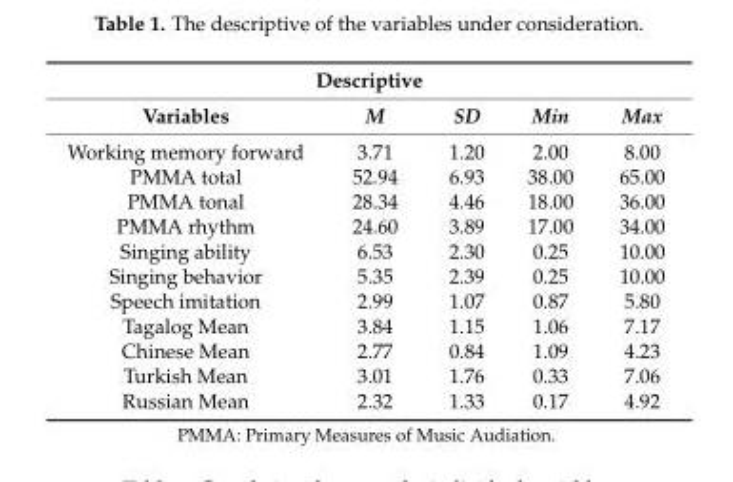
<table><thead><tr><td colspan="5">Descriptive</td></tr><tr><td>Variables</td><td>M</td><td>SD</td><td>Min</td><td>Max</td></tr></thead><tbody><tr><td>Working memory forward</td><td>3.71</td><td>1.20</td><td>2.00</td><td>8.00</td></tr><tr><td>PMMA total</td><td>52.94</td><td>6.93</td><td>38.00</td><td>65.00</td></tr><tr><td>PMMA tonal</td><td>28.34</td><td>4.46</td><td>18.00</td><td>36.00</td></tr><tr><td>PMMA rhythm</td><td>24.60</td><td>3.89</td><td>17.00</td><td>34.00</td></tr><tr><td>Singing ability</td><td>6.53</td><td>2.30</td><td>0.25</td><td>10.00</td></tr><tr><td>Singing behavior</td><td>5.35</td><td>2.39</td><td>0.25</td><td>10.00</td></tr><tr><td>Speech imitation</td><td>2.99</td><td>1.07</td><td>0.87</td><td>5.80</td></tr><tr><td>Tagalog Mean</td><td>3.84</td><td>1.15</td><td>1.06</td><td>7.17</td></tr><tr><td>Chinese Mean</td><td>2.77</td><td>0.84</td><td>1.09</td><td>4.23</td></tr><tr><td>Turkish Mean</td><td>3.01</td><td>1.76</td><td>0.33</td><td>7.06</td></tr><tr><td>Russian Mean</td><td>2.32</td><td>1.33</td><td>0.17</td><td>4.92</td></tr></tbody></table>